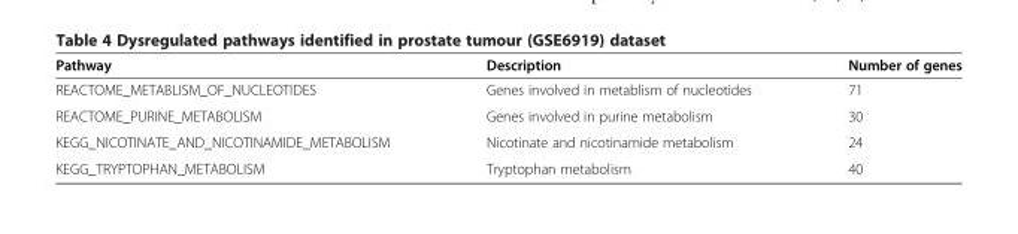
<table><thead><tr><td>Pathway</td><td>Description</td><td>Number of genes</td></tr></thead><tbody><tr><td>REACTOME_METABLISM_OF_NUCLEOTIDES</td><td>Genes involved in metablism of nucleotides</td><td>71</td></tr><tr><td>REACTOME_PURINE_METABOLISM</td><td>Genes involved in purine metabolism</td><td>30</td></tr><tr><td>KEGG_NICOTINATE_AND_NICOTINAMIDE_METABOLISM</td><td>Nicotinate and nicotinamide metabolism</td><td>24</td></tr><tr><td>KEGG_TRYPTOPHAN_METABOLISM</td><td>Tryptophan metabolism</td><td>40</td></tr></tbody></table>